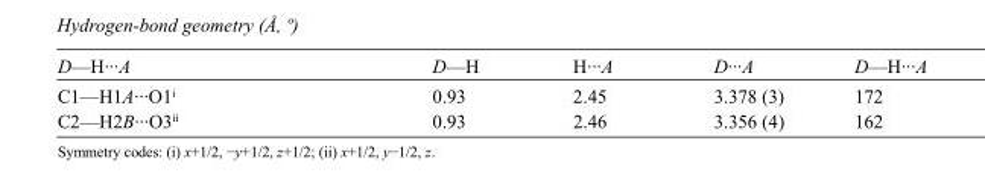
<table><tbody><tr><td>D—H···A</td><td>D—H</td><td>H···A</td><td>D···A</td><td>D—H···A</td></tr><tr><td>C1—H1A···O1<sup>i</sup></td><td>0.93</td><td>2.45</td><td>3.378 (3)</td><td>172</td></tr><tr><td>C2—H2B···O3<sup>ii</sup></td><td>0.93</td><td>2.46</td><td>3.356 (4)</td><td>162</td></tr></tbody></table>